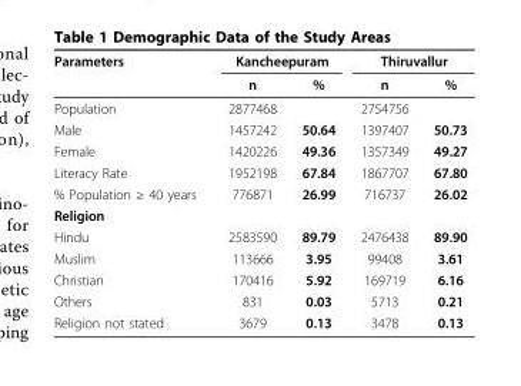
<table><thead><tr><td rowspan="2">Parameters</td><td colspan="2">Kancheepuram</td><td colspan="2">Thiruvallur</td></tr><tr><td>n</td><td>%</td><td>n</td><td>%</td></tr></thead><tbody><tr><td>Population</td><td>2877468</td><td></td><td>2754756</td><td></td></tr><tr><td>Male</td><td>1457242</td><td>50.64</td><td>1397407</td><td>50.73</td></tr><tr><td>Female</td><td>1420226</td><td>49.36</td><td>1357349</td><td>49.27</td></tr><tr><td>Literacy Rate</td><td>1952198</td><td>67.84</td><td>1867707</td><td>67.80</td></tr><tr><td>% Population ≥ 40 years</td><td>776871</td><td>26.99</td><td>716737</td><td>26.02</td></tr><tr><td colspan="5">Religion</td></tr><tr><td>Hindu</td><td>2583590</td><td>89.79</td><td>2476438</td><td>89.90</td></tr><tr><td>Muslim</td><td>113666</td><td>3.95</td><td>99408</td><td>3.61</td></tr><tr><td>Christian</td><td>170416</td><td>5.92</td><td>169719</td><td>6.16</td></tr><tr><td>Others</td><td>831</td><td>0.03</td><td>5713</td><td>0.21</td></tr><tr><td>Religion not stated</td><td>3679</td><td>0.13</td><td>3478</td><td>0.13</td></tr></tbody></table>